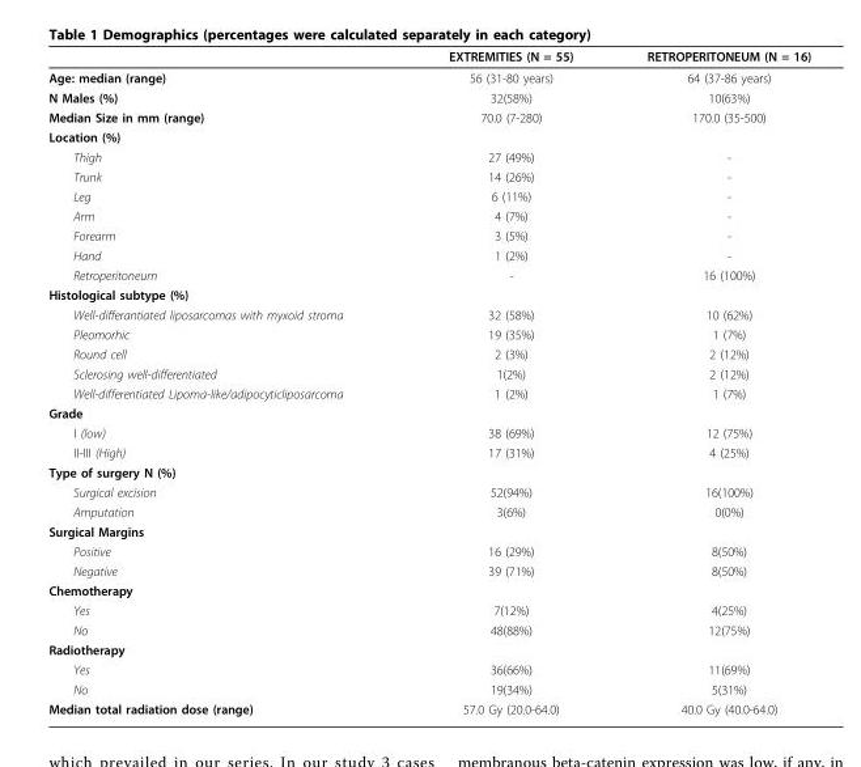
<table><thead><tr><td></td><td>EXTREMITIES (N = 55)</td><td>RETROPERITONEUM (N = 16)</td></tr></thead><tbody><tr><td>Age: median (range)</td><td>56 (31-80 years)</td><td>64 (37-86 years)</td></tr><tr><td>N Males (%)</td><td>32(58%)</td><td>10(63%)</td></tr><tr><td>Median Size in mm (range)</td><td>70.0 (7-280)</td><td>170.0 (35-500)</td></tr><tr><td colspan="3">Location (%)</td></tr><tr><td>Thigh</td><td>27 (49%)</td><td>-</td></tr><tr><td>Trunk</td><td>14 (26%)</td><td>-</td></tr><tr><td>Leg</td><td>6 (11%)</td><td>-</td></tr><tr><td>Arm</td><td>4 (7%)</td><td>-</td></tr><tr><td>Forearm</td><td>3 (5%)</td><td>-</td></tr><tr><td>Hand</td><td>1 (2%)</td><td>-</td></tr><tr><td>Retroperitoneum</td><td>-</td><td>16 (100%)</td></tr><tr><td colspan="3">Histological subtype (%)</td></tr><tr><td>Well-differantiated liposarcomas with myxoid stroma</td><td>32 (58%)</td><td>10 (62%)</td></tr><tr><td>Pleomorhic</td><td>19 (35%)</td><td>1 (7%)</td></tr><tr><td>Round cell</td><td>2 (3%)</td><td>2 (12%)</td></tr><tr><td>Sclerosing well-differentiated</td><td>1(2%)</td><td>2 (12%)</td></tr><tr><td>Well-differentiated Lipoma-like/adipocyticliposarcoma</td><td>1 (2%)</td><td>1 (7%)</td></tr><tr><td colspan="3">Grade</td></tr><tr><td>I (low)</td><td>38 (69%)</td><td>12 (75%)</td></tr><tr><td>II-III (High)</td><td>17 (31%)</td><td>4 (25%)</td></tr><tr><td colspan="3">Type of surgery N (%)</td></tr><tr><td>Surgical excision</td><td>52(94%)</td><td>16(100%)</td></tr><tr><td>Amputation</td><td>3(6%)</td><td>0(0%)</td></tr><tr><td colspan="3">Surgical Margins</td></tr><tr><td>Positive</td><td>16 (29%)</td><td>8(50%)</td></tr><tr><td>Negative</td><td>39 (71%)</td><td>8(50%)</td></tr><tr><td colspan="3">Chemotherapy</td></tr><tr><td>Yes</td><td>7(12%)</td><td>4(25%)</td></tr><tr><td>No</td><td>48(88%)</td><td>12(75%)</td></tr><tr><td colspan="3">Radiotherapy</td></tr><tr><td>Yes</td><td>36(66%)</td><td>11(69%)</td></tr><tr><td>No</td><td>19(34%)</td><td>5(31%)</td></tr><tr><td>Median total radiation dose (range)</td><td>57.0 Gy (20.0-64.0)</td><td>40.0 Gy (40.0-64.0)</td></tr></tbody></table>